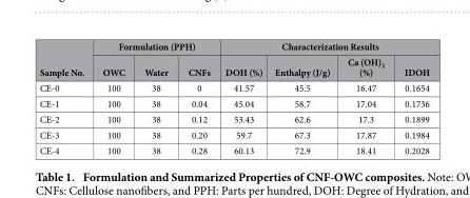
<table><thead><tr><td rowspan="2">Sample No.</td><td colspan="3">Formulation (PPH)</td><td colspan="4">Characterization Results</td></tr><tr><td>OWC</td><td>Water</td><td>CNFs</td><td>DOH (%)</td><td>Enthalpy (J/g)</td><td>Ca (OH)<sub>2</sub> (%)</td><td>IDOH</td></tr></thead><tbody><tr><td>CE-0</td><td>100</td><td>38</td><td>0</td><td>41.57</td><td>45.5</td><td>16.47</td><td>0.1654</td></tr><tr><td>CE-1</td><td>100</td><td>38</td><td>0.04</td><td>45.04</td><td>58.7</td><td>17.04</td><td>0.1736</td></tr><tr><td>CE-2</td><td>100</td><td>38</td><td>0.12</td><td>53.43</td><td>62.6</td><td>17.3</td><td>0.1899</td></tr><tr><td>CE-3</td><td>100</td><td>38</td><td>0.20</td><td>59.7</td><td>67.3</td><td>17.87</td><td>0.1984</td></tr><tr><td>CE-4</td><td>100</td><td>38</td><td>0.28</td><td>60.13</td><td>72.9</td><td>18.41</td><td>0.2028</td></tr></tbody></table>